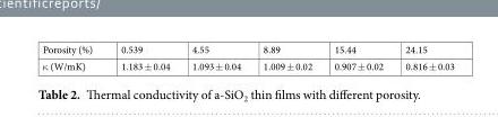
<table><tbody><tr><td>Porosity (%)</td><td>0.539</td><td>4.55</td><td>8.89</td><td>15.44</td><td>24.15</td></tr><tr><td>κ (W/mK)</td><td>1.183 ± 0.04</td><td>1.093 ± 0.04</td><td>1.009 ± 0.02</td><td>0.907 ± 0.02</td><td>0.816 ± 0.03</td></tr></tbody></table>